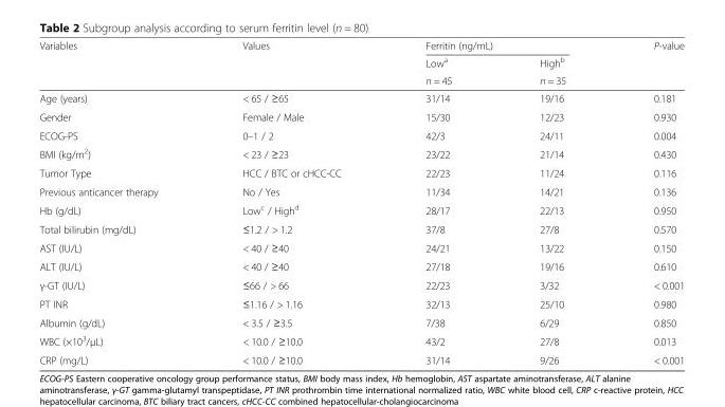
<table><thead><tr><td rowspan="3">Variables</td><td rowspan="3">Values</td><td colspan="2">Ferritin (ng/mL)</td><td rowspan="3">P-value</td></tr><tr><td rowspan="2">Low<sup>a</sup> n = 45</td><td rowspan="2">High<sup>b</sup> n = 35</td></tr><tr></tr></thead><tbody><tr><td>Age (years)</td><td>&lt; 65 / ≥65</td><td>31/14</td><td>19/16</td><td>0.181</td></tr><tr><td>Gender</td><td>Female / Male</td><td>15/30</td><td>12/23</td><td>0.930</td></tr><tr><td>ECOG-PS</td><td>0–1 / 2</td><td>42/3</td><td>24/11</td><td>0.004</td></tr><tr><td>BMI (kg/m<sup>2</sup>)</td><td>&lt; 23 / ≥23</td><td>23/22</td><td>21/14</td><td>0.430</td></tr><tr><td>Tumor Type</td><td>HCC / BTC or cHCC-CC</td><td>22/23</td><td>11/24</td><td>0.116</td></tr><tr><td>Previous anticancer therapy</td><td>No / Yes</td><td>11/34</td><td>14/21</td><td>0.136</td></tr><tr><td>Hb (g/dL)</td><td>Low<sup>c</sup> / High<sup>d</sup></td><td>28/17</td><td>22/13</td><td>0.950</td></tr><tr><td>Total bilirubin (mg/dL)</td><td>≤1.2 / &gt; 1.2</td><td>37/8</td><td>27/8</td><td>0.570</td></tr><tr><td>AST (IU/L)</td><td>&lt; 40 / ≥40</td><td>24/21</td><td>13/22</td><td>0.150</td></tr><tr><td>ALT (IU/L)</td><td>&lt; 40 / ≥40</td><td>27/18</td><td>19/16</td><td>0.610</td></tr><tr><td>γ-GT (IU/L)</td><td>≤66 / &gt; 66</td><td>22/23</td><td>3/32</td><td>&lt; 0.001</td></tr><tr><td>PT INR</td><td>≤1.16 / &gt; 1.16</td><td>32/13</td><td>25/10</td><td>0.980</td></tr><tr><td>Albumin (g/dL)</td><td>&lt; 3.5 / ≥3.5</td><td>7/38</td><td>6/29</td><td>0.850</td></tr><tr><td>WBC (×10<sup>3</sup>/μL)</td><td>&lt; 10.0 / ≥10.0</td><td>43/2</td><td>27/8</td><td>0.013</td></tr><tr><td>CRP (mg/L)</td><td>&lt; 10.0 / ≥10.0</td><td>31/14</td><td>9/26</td><td>&lt; 0.001</td></tr></tbody></table>